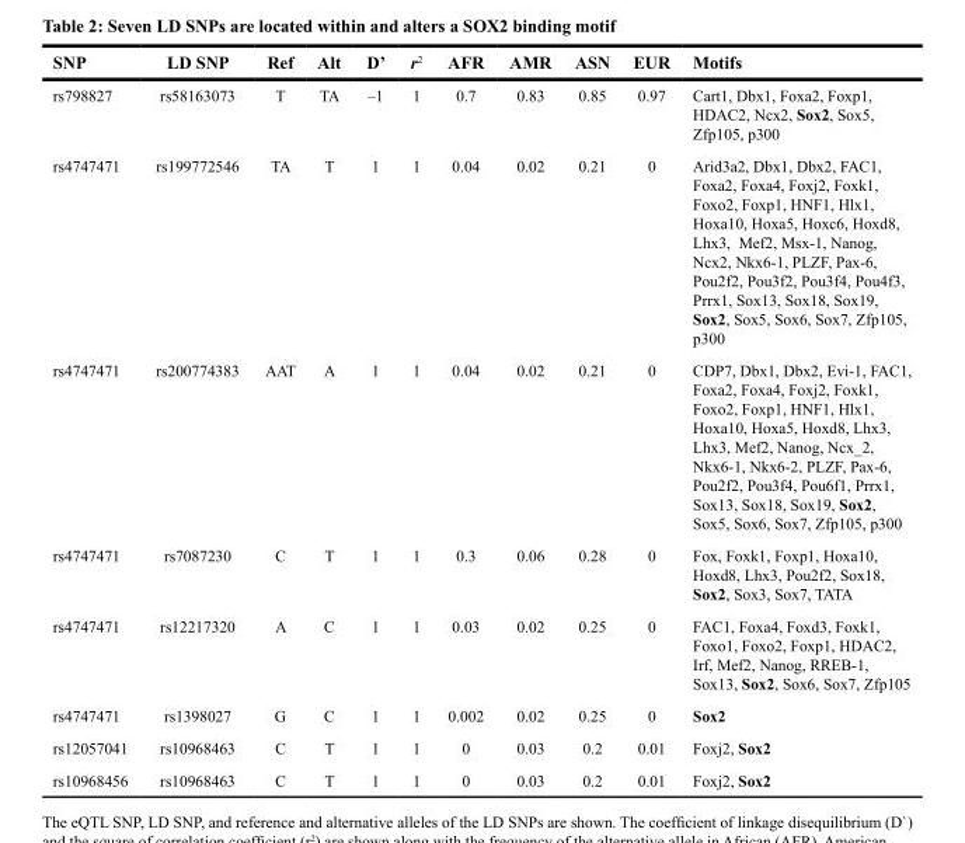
<table><thead><tr><td>SNP</td><td>LD SNP</td><td>Ref</td><td>Alt</td><td>D’</td><td>r<sup>2</sup></td><td>AFR</td><td>AMR</td><td>ASN</td><td>EUR</td><td>Motifs</td></tr></thead><tbody><tr><td>rs798827</td><td>rs58163073</td><td>T</td><td>TA</td><td>–1</td><td>1</td><td>0.7</td><td>0.83</td><td>0.85</td><td>0.97</td><td>Cart1, Dbx1, Foxa2, Foxp1, HDAC2, Ncx2, Sox2, Sox5, Zfp105, p300</td></tr><tr><td>rs4747471</td><td>rs199772546</td><td>TA</td><td>T</td><td>1</td><td>1</td><td>0.04</td><td>0.02</td><td>0.21</td><td>0</td><td>Arid3a2, Dbx1, Dbx2, FAC1, Foxa2, Foxa4, Foxj2, Foxk1, Foxo2, Foxp1, HNF1, Hlx1, Hoxa10, Hoxa5, Hoxc6, Hoxd8, Lhx3, Mef2, Msx-1, Nanog, Ncx2, Nkx6-1, PLZF, Pax-6, Pou2f2, Pou3f2, Pou3f4, Pou4f3, Prrx1, Sox13, Sox18, Sox19, Sox2, Sox5, Sox6, Sox7, Zfp105, p300</td></tr><tr><td>rs4747471</td><td>rs200774383</td><td>AAT</td><td>A</td><td>1</td><td>1</td><td>0.04</td><td>0.02</td><td>0.21</td><td>0</td><td>CDP7, Dbx1, Dbx2, Evi-1, FAC1, Foxa2, Foxa4, Foxj2, Foxk1, Foxo2, Foxp1, HNF1, Hlx1, Hoxa10, Hoxa5, Hoxd8, Lhx3, Lhx3, Mef2, Nanog, Ncx_2, Nkx6-1, Nkx6-2, PLZF, Pax-6, Pou2f2, Pou3f4, Pou6f1, Prrx1, Sox13, Sox18, Sox19, Sox2, Sox5, Sox6, Sox7, Zfp105, p300</td></tr><tr><td>rs4747471</td><td>rs7087230</td><td>C</td><td>T</td><td>1</td><td>1</td><td>0.3</td><td>0.06</td><td>0.28</td><td>0</td><td>Fox, Foxk1, Foxp1, Hoxa10, Hoxd8, Lhx3, Pou2f2, Sox18, Sox2, Sox3, Sox7, TATA</td></tr><tr><td>rs4747471</td><td>rs12217320</td><td>A</td><td>C</td><td>1</td><td>1</td><td>0.03</td><td>0.02</td><td>0.25</td><td>0</td><td>FAC1, Foxa4, Foxd3, Foxk1, Foxo1, Foxo2, Foxp1, HDAC2, Irf, Mef2, Nanog, RREB-1, Sox13, Sox2, Sox6, Sox7, Zfp105</td></tr><tr><td>rs4747471</td><td>rs1398027</td><td>G</td><td>C</td><td>1</td><td>1</td><td>0.002</td><td>0.02</td><td>0.25</td><td>0</td><td>Sox2</td></tr><tr><td>rs12057041</td><td>rs10968463</td><td>C</td><td>T</td><td>1</td><td>1</td><td>0</td><td>0.03</td><td>0.2</td><td>0.01</td><td>Foxj2, Sox2</td></tr><tr><td>rs10968456</td><td>rs10968463</td><td>C</td><td>T</td><td>1</td><td>1</td><td>0</td><td>0.03</td><td>0.2</td><td>0.01</td><td>Foxj2, Sox2</td></tr></tbody></table>